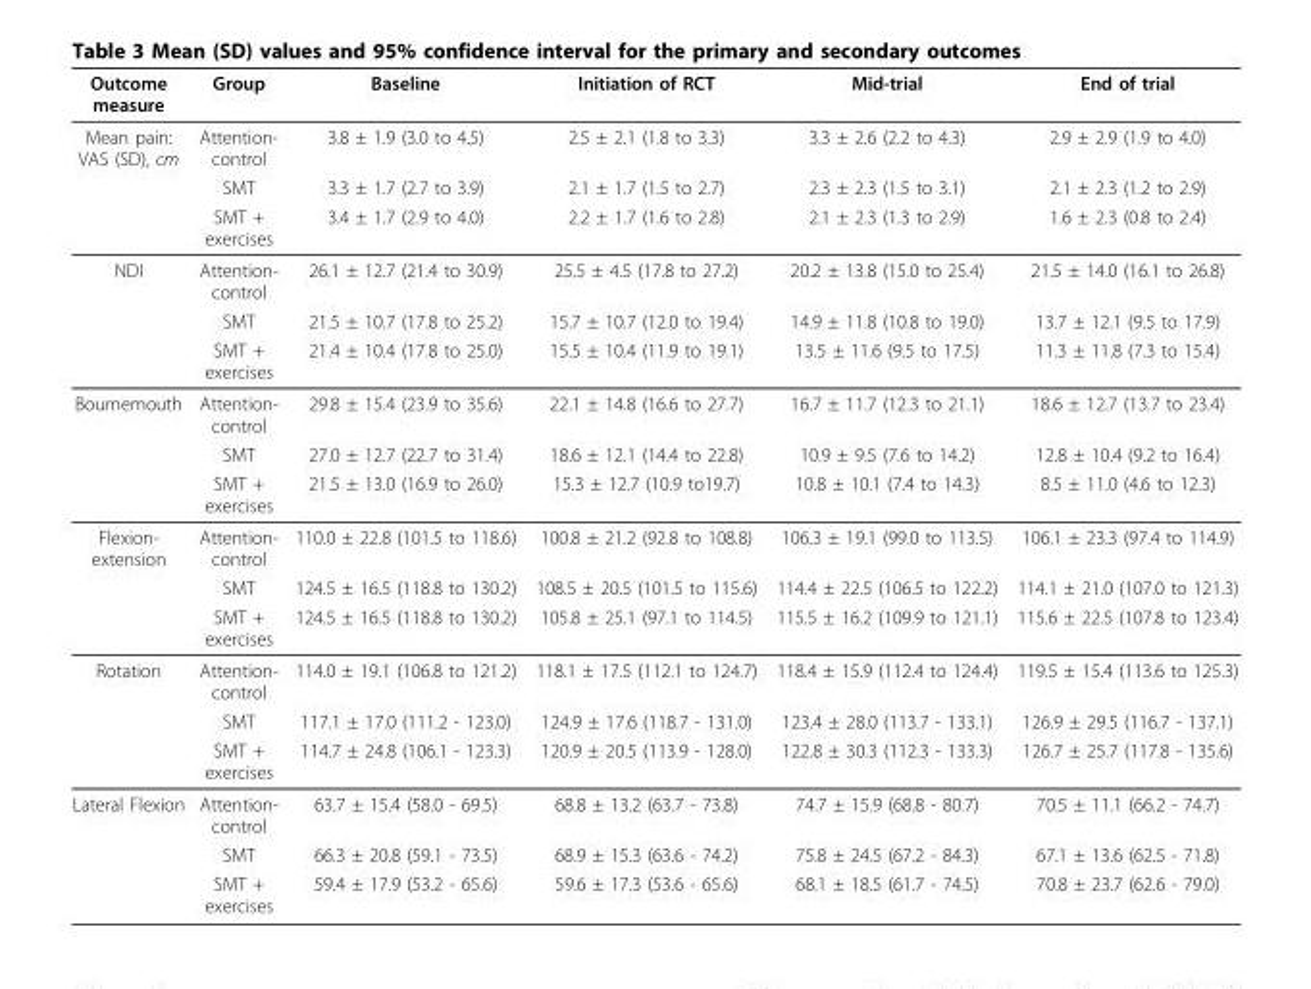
<table><thead><tr><td>Outcome measure</td><td>Group</td><td>Baseline</td><td>Initiation of RCT</td><td>Mid-trial</td><td>End of trial</td></tr></thead><tbody><tr><td rowspan="3">Mean pain: VAS (SD), cm</td><td>Attention- control</td><td>3.8 ± 1.9 (3.0 to 4.5)</td><td>2.5 ± 2.1 (1.8 to 3.3)</td><td>3.3 ± 2.6 (2.2 to 4.3)</td><td>2.9 ± 2.9 (1.9 to 4.0)</td></tr><tr><td>SMT</td><td>3.3 ± 1.7 (2.7 to 3.9)</td><td>2.1 ± 1.7 (1.5 to 2.7)</td><td>2.3 ± 2.3 (1.5 to 3.1)</td><td>2.1 ± 2.3 (1.2 to 2.9)</td></tr><tr><td>SMT + exercises</td><td>3.4 ± 1.7 (2.9 to 4.0)</td><td>2.2 ± 1.7 (1.6 to 2.8)</td><td>2.1 ± 2.3 (1.3 to 2.9)</td><td>1.6 ± 2.3 (0.8 to 2.4)</td></tr><tr><td rowspan="3">NDI</td><td>Attention- control</td><td>26.1 ± 12.7 (21.4 to 30.9)</td><td>25.5 ± 4.5 (17.8 to 27.2)</td><td>20.2 ± 13.8 (15.0 to 25.4)</td><td>21.5 ± 14.0 (16.1 to 26.8)</td></tr><tr><td>SMT</td><td>21.5 ± 10.7 (17.8 to 25.2)</td><td>15.7 ± 10.7 (12.0 to 19.4)</td><td>14.9 ± 11.8 (10.8 to 19.0)</td><td>13.7 ± 12.1 (9.5 to 17.9)</td></tr><tr><td>SMT + exercises</td><td>21.4 ± 10.4 (17.8 to 25.0)</td><td>15.5 ± 10.4 (11.9 to 19.1)</td><td>13.5 ± 11.6 (9.5 to 17.5)</td><td>11.3 ± 11.8 (7.3 to 15.4)</td></tr><tr><td rowspan="3">Bournemouth</td><td>Attention- control</td><td>29.8 ± 15.4 (23.9 to 35.6)</td><td>22.1 ± 14.8 (16.6 to 27.7)</td><td>16.7 ± 11.7 (12.3 to 21.1)</td><td>18.6 ± 12.7 (13.7 to 23.4)</td></tr><tr><td>SMT</td><td>27.0 ± 12.7 (22.7 to 31.4)</td><td>18.6 ± 12.1 (14.4 to 22.8)</td><td>10.9 ± 9.5 (7.6 to 14.2)</td><td>12.8 ± 10.4 (9.2 to 16.4)</td></tr><tr><td>SMT + exercises</td><td>21.5 ± 13.0 (16.9 to 26.0)</td><td>15.3 ± 12.7 (10.9 to19.7)</td><td>10.8 ± 10.1 (7.4 to 14.3)</td><td>8.5 ± 11.0 (4.6 to 12.3)</td></tr><tr><td rowspan="3">Flexion- extension</td><td>Attention- control</td><td>110.0 ± 22.8 (101.5 to 118.6)</td><td>100.8 ± 21.2 (92.8 to 108.8)</td><td>106.3 ± 19.1 (99.0 to 113.5)</td><td>106.1 ± 23.3 (97.4 to 114.9)</td></tr><tr><td>SMT</td><td>124.5 ± 16.5 (118.8 to 130.2)</td><td>108.5 ± 20.5 (101.5 to 115.6)</td><td>114.4 ± 22.5 (106.5 to 122.2)</td><td>114.1 ± 21.0 (107.0 to 121.3)</td></tr><tr><td>SMT + exercises</td><td>124.5 ± 16.5 (118.8 to 130.2)</td><td>105.8 ± 25.1 (97.1 to 114.5)</td><td>115.5 ± 16.2 (109.9 to 121.1)</td><td>115.6 ± 22.5 (107.8 to 123.4)</td></tr><tr><td rowspan="3">Rotation</td><td>Attention- control</td><td>114.0 ± 19.1 (106.8 to 121.2)</td><td>118.1 ± 17.5 (112.1 to 124.7)</td><td>118.4 ± 15.9 (112.4 to 124.4)</td><td>119.5 ± 15.4 (113.6 to 125.3)</td></tr><tr><td>SMT</td><td>117.1 ± 17.0 (111.2 - 123.0)</td><td>124.9 ± 17.6 (118.7 - 131.0)</td><td>123.4 ± 28.0 (113.7 - 133.1)</td><td>126.9 ± 29.5 (116.7 - 137.1)</td></tr><tr><td>SMT + exercises</td><td>114.7 ± 24.8 (106.1 - 123.3)</td><td>120.9 ± 20.5 (113.9 - 128.0)</td><td>122.8 ± 30.3 (112.3 - 133.3)</td><td>126.7 ± 25.7 (117.8 - 135.6)</td></tr><tr><td rowspan="3">Lateral Flexion</td><td>Attention- control</td><td>63.7 ± 15.4 (58.0 - 69.5)</td><td>68.8 ± 13.2 (63.7 - 73.8)</td><td>74.7 ± 15.9 (68.8 - 80.7)</td><td>70.5 ± 11.1 (66.2 - 74.7)</td></tr><tr><td>SMT</td><td>66.3 ± 20.8 (59.1 - 73.5)</td><td>68.9 ± 15.3 (63.6 - 74.2)</td><td>75.8 ± 24.5 (67.2 - 84.3)</td><td>67.1 ± 13.6 (62.5 - 71.8)</td></tr><tr><td>SMT + exercises</td><td>59.4 ± 17.9 (53.2 - 65.6)</td><td>59.6 ± 17.3 (53.6 - 65.6)</td><td>68.1 ± 18.5 (61.7 - 74.5)</td><td>70.8 ± 23.7 (62.6 - 79.0)</td></tr></tbody></table>